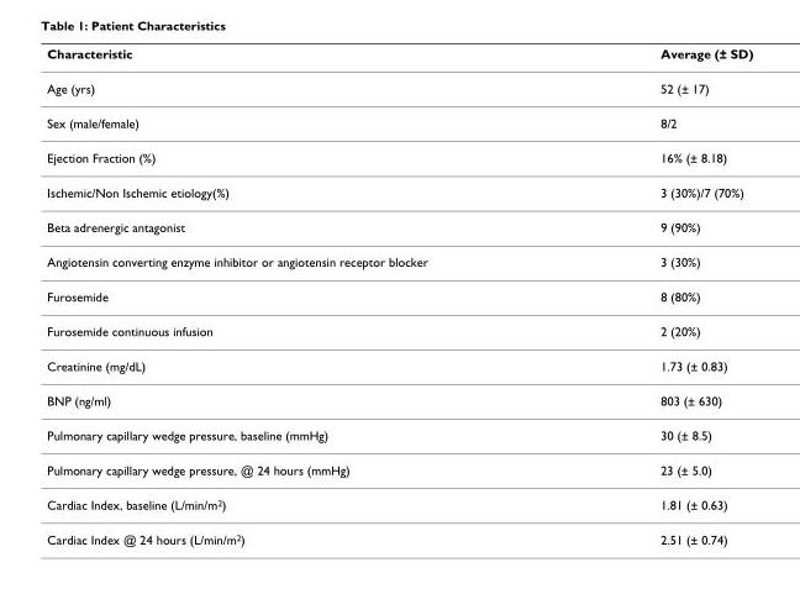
<table><thead><tr><td>Characteristic</td><td>Average (± SD)</td></tr></thead><tbody><tr><td>Age (yrs)</td><td>52 (± 17)</td></tr><tr><td>Sex (male/female)</td><td>8/2</td></tr><tr><td>Ejection Fraction (%)</td><td>16% (± 8.18)</td></tr><tr><td>Ischemic/Non Ischemic etiology(%)</td><td>3 (30%)/7 (70%)</td></tr><tr><td>Beta adrenergic antagonist</td><td>9 (90%)</td></tr><tr><td>Angiotensin converting enzyme inhibitor or angiotensin receptor blocker</td><td>3 (30%)</td></tr><tr><td>Furosemide</td><td>8 (80%)</td></tr><tr><td>Furosemide continuous infusion</td><td>2 (20%)</td></tr><tr><td>Creatinine (mg/dL)</td><td>1.73 (± 0.83)</td></tr><tr><td>BNP (ng/ml)</td><td>803 (± 630)</td></tr><tr><td>Pulmonary capillary wedge pressure, baseline (mmHg)</td><td>30 (± 8.5)</td></tr><tr><td>Pulmonary capillary wedge pressure, @ 24 hours (mmHg)</td><td>23 (± 5.0)</td></tr><tr><td>Cardiac Index, baseline (L/min/m<sup>2</sup>)</td><td>1.81 (± 0.63)</td></tr><tr><td>Cardiac Index @ 24 hours (L/min/m<sup>2</sup>)</td><td>2.51 (± 0.74)</td></tr></tbody></table>